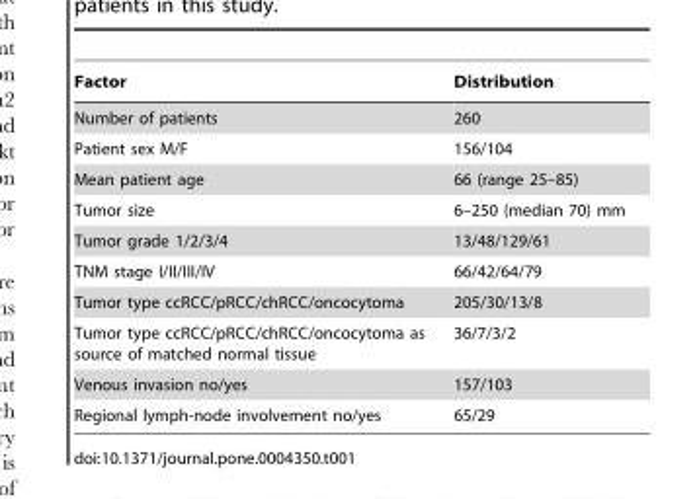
<table><thead><tr><td>Factor</td><td>Distribution</td></tr></thead><tbody><tr><td>Number of patients</td><td>260</td></tr><tr><td>Patient sex M/F</td><td>156/104</td></tr><tr><td>Mean patient age</td><td>66 (range 25–85)</td></tr><tr><td>Tumor size</td><td>6–250 (median 70) mm</td></tr><tr><td>Tumor grade 1/2/3/4</td><td>13/48/129/61</td></tr><tr><td>TNM stage I/II/III/IV</td><td>66/42/64/79</td></tr><tr><td>Tumor type ccRCC/pRCC/chRCC/oncocytoma</td><td>205/30/13/8</td></tr><tr><td>Tumor type ccRCC/pRCC/chRCC/oncocytoma as source of matched normal tissue</td><td>36/7/3/2</td></tr><tr><td>Venous invasion no/yes</td><td>157/103</td></tr><tr><td>Regional lymph-node involvement no/yes</td><td>65/29</td></tr></tbody></table>